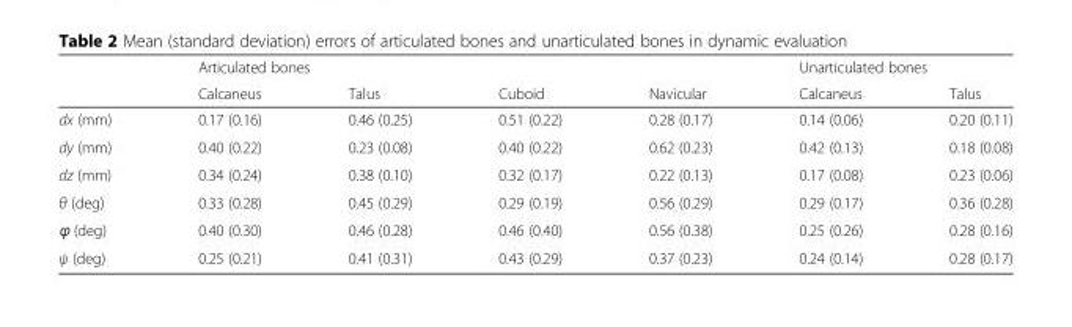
<table><thead><tr><td rowspan="2"></td><td colspan="4">Articulated bones</td><td colspan="2">Unarticulated bones</td></tr><tr><td>Calcaneus</td><td>Talus</td><td>Cuboid</td><td>Navicular</td><td>Calcaneus</td><td>Talus</td></tr></thead><tbody><tr><td>dx (mm)</td><td>0.17 (0.16)</td><td>0.46 (0.25)</td><td>0.51 (0.22)</td><td>0.28 (0.17)</td><td>0.14 (0.06)</td><td>0.20 (0.11)</td></tr><tr><td>dy (mm)</td><td>0.40 (0.22)</td><td>0.23 (0.08)</td><td>0.40 (0.22)</td><td>0.62 (0.23)</td><td>0.42 (0.13)</td><td>0.18 (0.08)</td></tr><tr><td>dz (mm)</td><td>0.34 (0.24)</td><td>0.38 (0.10)</td><td>0.32 (0.17)</td><td>0.22 (0.13)</td><td>0.17 (0.08)</td><td>0.23 (0.06)</td></tr><tr><td>θ (deg)</td><td>0.33 (0.28)</td><td>0.45 (0.29)</td><td>0.29 (0.19)</td><td>0.56 (0.29)</td><td>0.29 (0.17)</td><td>0.36 (0.28)</td></tr><tr><td>ϕ (deg)</td><td>0.40 (0.30)</td><td>0.46 (0.28)</td><td>0.46 (0.40)</td><td>0.56 (0.38)</td><td>0.25 (0.26)</td><td>0.28 (0.16)</td></tr><tr><td>ψ (deg)</td><td>0.25 (0.21)</td><td>0.41 (0.31)</td><td>0.43 (0.29)</td><td>0.37 (0.23)</td><td>0.24 (0.14)</td><td>0.28 (0.17)</td></tr></tbody></table>